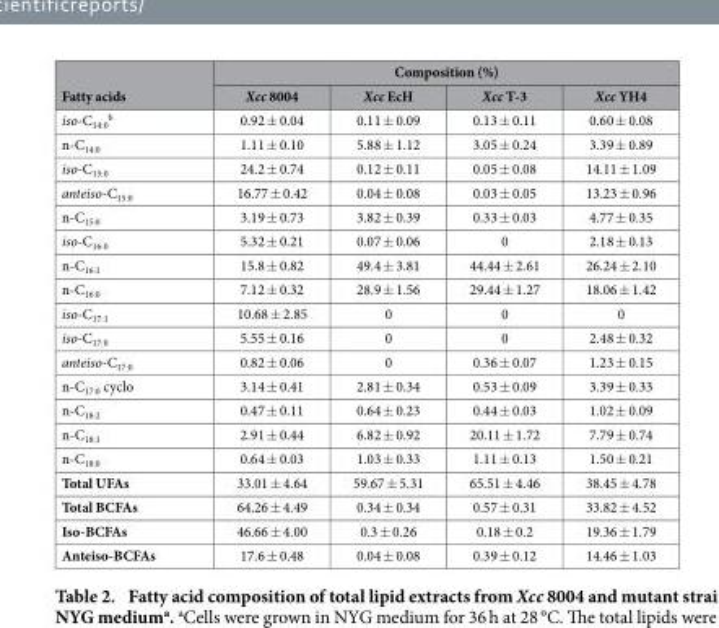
<table><thead><tr><td rowspan="2">Fatty acids</td><td colspan="4">Composition (%)</td></tr><tr><td>Xcc 8004</td><td>Xcc EcH</td><td>Xcc T-3</td><td>Xcc YH4</td></tr></thead><tbody><tr><td>iso-C<sub>14:0</sub> <sup>b</sup></td><td>0.92 ± 0.04</td><td>0.11 ± 0.09</td><td>0.13 ± 0.11</td><td>0.60 ± 0.08</td></tr><tr><td>n-C<sub>14:0</sub></td><td>1.11 ± 0.10</td><td>5.88 ± 1.12</td><td>3.05 ± 0.24</td><td>3.39 ± 0.89</td></tr><tr><td>iso-C<sub>15:0</sub></td><td>24.2 ± 0.74</td><td>0.12 ± 0.11</td><td>0.05 ± 0.08</td><td>14.11 ± 1.09</td></tr><tr><td>anteiso-C<sub>15:0</sub></td><td>16.77 ± 0.42</td><td>0.04 ± 0.08</td><td>0.03 ± 0.05</td><td>13.23 ± 0.96</td></tr><tr><td>n-C<sub>15:0</sub></td><td>3.19 ± 0.73</td><td>3.82 ± 0.39</td><td>0.33 ± 0.03</td><td>4.77 ± 0.35</td></tr><tr><td>iso-C<sub>16:0</sub></td><td>5.32 ± 0.21</td><td>0.07 ± 0.06</td><td>0</td><td>2.18 ± 0.13</td></tr><tr><td>n-C<sub>16:1</sub></td><td>15.8 ± 0.82</td><td>49.4 ± 3.81</td><td>44.44 ± 2.61</td><td>26.24 ± 2.10</td></tr><tr><td>n-C<sub>16:0</sub></td><td>7.12 ± 0.32</td><td>28.9 ± 1.56</td><td>29.44 ± 1.27</td><td>18.06 ± 1.42</td></tr><tr><td>iso-C<sub>17:1</sub></td><td>10.68 ± 2.85</td><td>0</td><td>0</td><td>0</td></tr><tr><td>iso-C<sub>17:0</sub></td><td>5.55 ± 0.16</td><td>0</td><td>0</td><td>2.48 ± 0.32</td></tr><tr><td>anteiso-C<sub>17:0</sub></td><td>0.82 ± 0.06</td><td>0</td><td>0.36 ± 0.07</td><td>1.23 ± 0.15</td></tr><tr><td>n-C<sub>17:0</sub> cyclo</td><td>3.14 ± 0.41</td><td>2.81 ± 0.34</td><td>0.53 ± 0.09</td><td>3.39 ± 0.33</td></tr><tr><td>n-C<sub>18:2</sub></td><td>0.47 ± 0.11</td><td>0.64 ± 0.23</td><td>0.44 ± 0.03</td><td>1.02 ± 0.09</td></tr><tr><td>n-C<sub>18:1</sub></td><td>2.91 ± 0.44</td><td>6.82 ± 0.92</td><td>20.11 ± 1.72</td><td>7.79 ± 0.74</td></tr><tr><td>n-C<sub>18:0</sub></td><td>0.64 ± 0.03</td><td>1.03 ± 0.33</td><td>1.11 ± 0.13</td><td>1.50 ± 0.21</td></tr><tr><td>Total UFAs</td><td>33.01 ± 4.64</td><td>59.67 ± 5.31</td><td>65.51 ± 4.46</td><td>38.45 ± 4.78</td></tr><tr><td>Total BCFAs</td><td>64.26 ± 4.49</td><td>0.34 ± 0.34</td><td>0.57 ± 0.31</td><td>33.82 ± 4.52</td></tr><tr><td>Iso-BCFAs</td><td>46.66 ± 4.00</td><td>0.3 ± 0.26</td><td>0.18 ± 0.2</td><td>19.36 ± 1.79</td></tr><tr><td>Anteiso-BCFAs</td><td>17.6 ± 0.48</td><td>0.04 ± 0.08</td><td>0.39 ± 0.12</td><td>14.46 ± 1.03</td></tr></tbody></table>